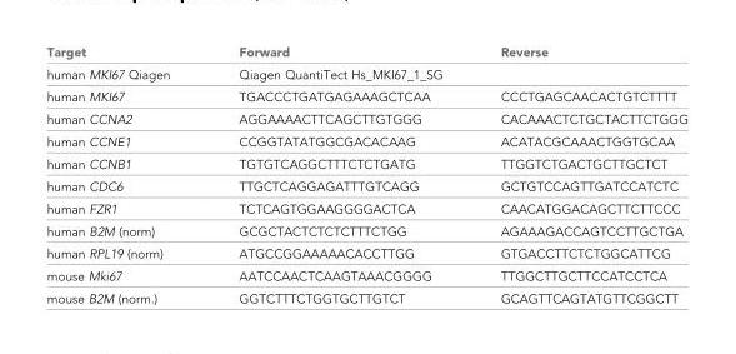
<table><thead><tr><td>Target</td><td>Forward</td><td>Reverse</td></tr></thead><tbody><tr><td>human MKI67 Qiagen</td><td colspan="2">Qiagen QuantiTect Hs_MKI67_1_SG</td></tr><tr><td>human MKI67</td><td>TGACCCTGATGAGAAAGCTCAA</td><td>CCCTGAGCAACACTGTCTTTT</td></tr><tr><td>human CCNA2</td><td>AGGAAAACTTCAGCTTGTGGG</td><td>CACAAACTCTGCTACTTCTGGG</td></tr><tr><td>human CCNE1</td><td>CCGGTATATGGCGACACAAG</td><td>ACATACGCAAACTGGTGCAA</td></tr><tr><td>human CCNB1</td><td>TGTGTCAGGCTTTCTCTGATG</td><td>TTGGTCTGACTGCTTGCTCT</td></tr><tr><td>human CDC6</td><td>TTGCTCAGGAGATTTGTCAGG</td><td>GCTGTCCAGTTGATCCATCTC</td></tr><tr><td>human FZR1</td><td>TCTCAGTGGAAGGGGACTCA</td><td>CAACATGGACAGCTTCTTCCC</td></tr><tr><td>human B2M (norm)</td><td>GCGCTACTCTCTCTTTCTGG</td><td>AGAAAGACCAGTCCTTGCTGA</td></tr><tr><td>human RPL19 (norm)</td><td>ATGCCGGAAAAACACCTTGG</td><td>GTGACCTTCTCTGGCATTCG</td></tr><tr><td>mouse Mki67</td><td>AATCCAACTCAAGTAAACGGGG</td><td>TTGGCTTGCTTCCATCCTCA</td></tr><tr><td>mouse B2M (norm.)</td><td>GGTCTTTCTGGTGCTTGTCT</td><td>GCAGTTCAGTATGTTCGGCTT</td></tr></tbody></table>